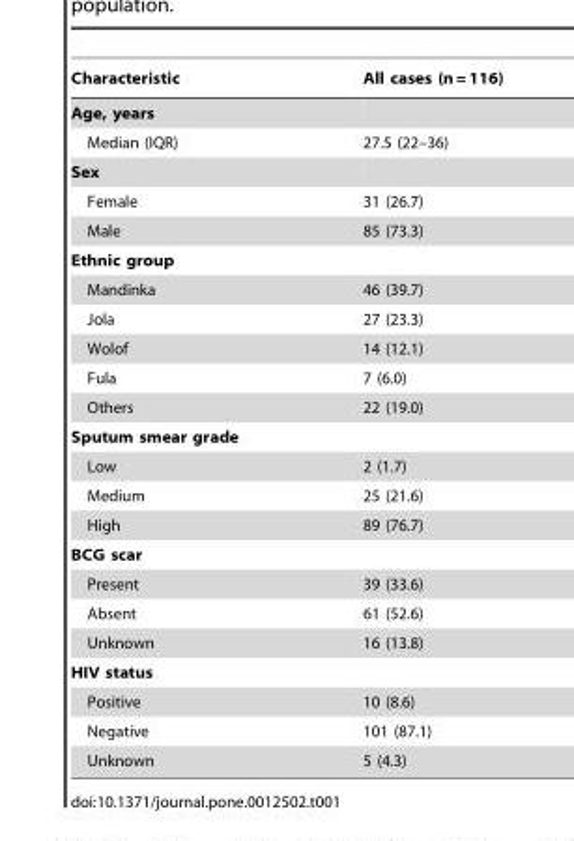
<table><thead><tr><td>Characteristic</td><td>All cases (n = 116)</td></tr></thead><tbody><tr><td colspan="2">Age, years</td></tr><tr><td>Median (IQR)</td><td>27.5 (22–36)</td></tr><tr><td colspan="2">Sex</td></tr><tr><td>Female</td><td>31 (26.7)</td></tr><tr><td>Male</td><td>85 (73.3)</td></tr><tr><td colspan="2">Ethnic group</td></tr><tr><td>Mandinka</td><td>46 (39.7)</td></tr><tr><td>Jola</td><td>27 (23.3)</td></tr><tr><td>Wolof</td><td>14 (12.1)</td></tr><tr><td>Fula</td><td>7 (6.0)</td></tr><tr><td>Others</td><td>22 (19.0)</td></tr><tr><td colspan="2">Sputum smear grade</td></tr><tr><td>Low</td><td>2 (1.7)</td></tr><tr><td>Medium</td><td>25 (21.6)</td></tr><tr><td>High</td><td>89 (76.7)</td></tr><tr><td colspan="2">BCG scar</td></tr><tr><td>Present</td><td>39 (33.6)</td></tr><tr><td>Absent</td><td>61 (52.6)</td></tr><tr><td>Unknown</td><td>16 (13.8)</td></tr><tr><td colspan="2">HIV status</td></tr><tr><td>Positive</td><td>10 (8.6)</td></tr><tr><td>Negative</td><td>101 (87.1)</td></tr><tr><td>Unknown</td><td>5 (4.3)</td></tr></tbody></table>